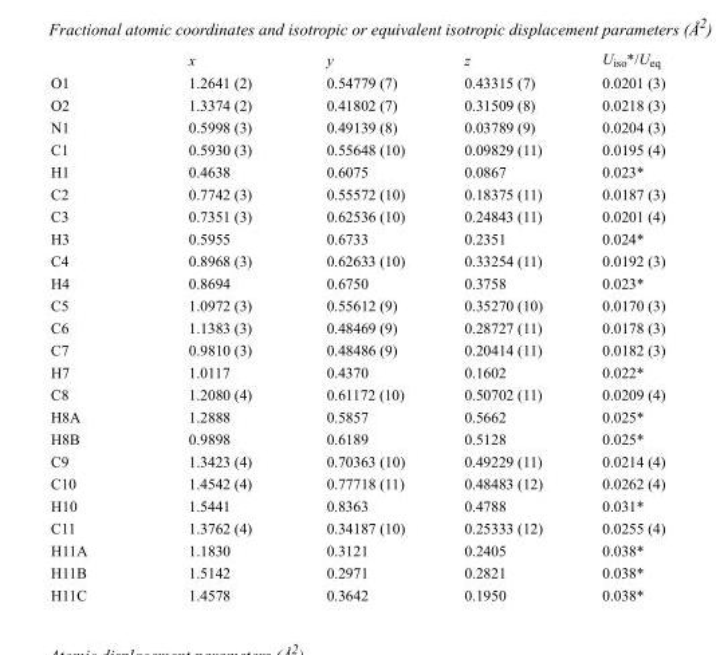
<table><thead><tr><td></td><td>x</td><td>y</td><td>z</td><td>U<sub>iso</sub>*/U<sub>eq</sub></td></tr></thead><tbody><tr><td>O1</td><td>1.2641 (2)</td><td>0.54779 (7)</td><td>0.43315 (7)</td><td>0.0201 (3)</td></tr><tr><td>O2</td><td>1.3374 (2)</td><td>0.41802 (7)</td><td>0.31509 (8)</td><td>0.0218 (3)</td></tr><tr><td>N1</td><td>0.5998 (3)</td><td>0.49139 (8)</td><td>0.03789 (9)</td><td>0.0204 (3)</td></tr><tr><td>C1</td><td>0.5930 (3)</td><td>0.55648 (10)</td><td>0.09829 (11)</td><td>0.0195 (4)</td></tr><tr><td>H1</td><td>0.4638</td><td>0.6075</td><td>0.0867</td><td>0.023*</td></tr><tr><td>C2</td><td>0.7742 (3)</td><td>0.55572 (10)</td><td>0.18375 (11)</td><td>0.0187 (3)</td></tr><tr><td>C3</td><td>0.7351 (3)</td><td>0.62536 (10)</td><td>0.24843 (11)</td><td>0.0201 (4)</td></tr><tr><td>H3</td><td>0.5955</td><td>0.6733</td><td>0.2351</td><td>0.024*</td></tr><tr><td>C4</td><td>0.8968 (3)</td><td>0.62633 (10)</td><td>0.33254 (11)</td><td>0.0192 (3)</td></tr><tr><td>H4</td><td>0.8694</td><td>0.6750</td><td>0.3758</td><td>0.023*</td></tr><tr><td>C5</td><td>1.0972 (3)</td><td>0.55612 (9)</td><td>0.35270 (10)</td><td>0.0170 (3)</td></tr><tr><td>C6</td><td>1.1383 (3)</td><td>0.48469 (9)</td><td>0.28727 (11)</td><td>0.0178 (3)</td></tr><tr><td>C7</td><td>0.9810 (3)</td><td>0.48486 (9)</td><td>0.20414 (11)</td><td>0.0182 (3)</td></tr><tr><td>H7</td><td>1.0117</td><td>0.4370</td><td>0.1602</td><td>0.022*</td></tr><tr><td>C8</td><td>1.2080 (4)</td><td>0.61172 (10)</td><td>0.50702 (11)</td><td>0.0209 (4)</td></tr><tr><td>H8A</td><td>1.2888</td><td>0.5857</td><td>0.5662</td><td>0.025*</td></tr><tr><td>H8B</td><td>0.9898</td><td>0.6189</td><td>0.5128</td><td>0.025*</td></tr><tr><td>C9</td><td>1.3423 (4)</td><td>0.70363 (10)</td><td>0.49229 (11)</td><td>0.0214 (4)</td></tr><tr><td>C10</td><td>1.4542 (4)</td><td>0.77718 (11)</td><td>0.48483 (12)</td><td>0.0262 (4)</td></tr><tr><td>H10</td><td>1.5441</td><td>0.8363</td><td>0.4788</td><td>0.031*</td></tr><tr><td>C11</td><td>1.3762 (4)</td><td>0.34187 (10)</td><td>0.25333 (12)</td><td>0.0255 (4)</td></tr><tr><td>H11A</td><td>1.1830</td><td>0.3121</td><td>0.2405</td><td>0.038*</td></tr><tr><td>H11B</td><td>1.5142</td><td>0.2971</td><td>0.2821</td><td>0.038*</td></tr><tr><td>H11C</td><td>1.4578</td><td>0.3642</td><td>0.1950</td><td>0.038*</td></tr></tbody></table>